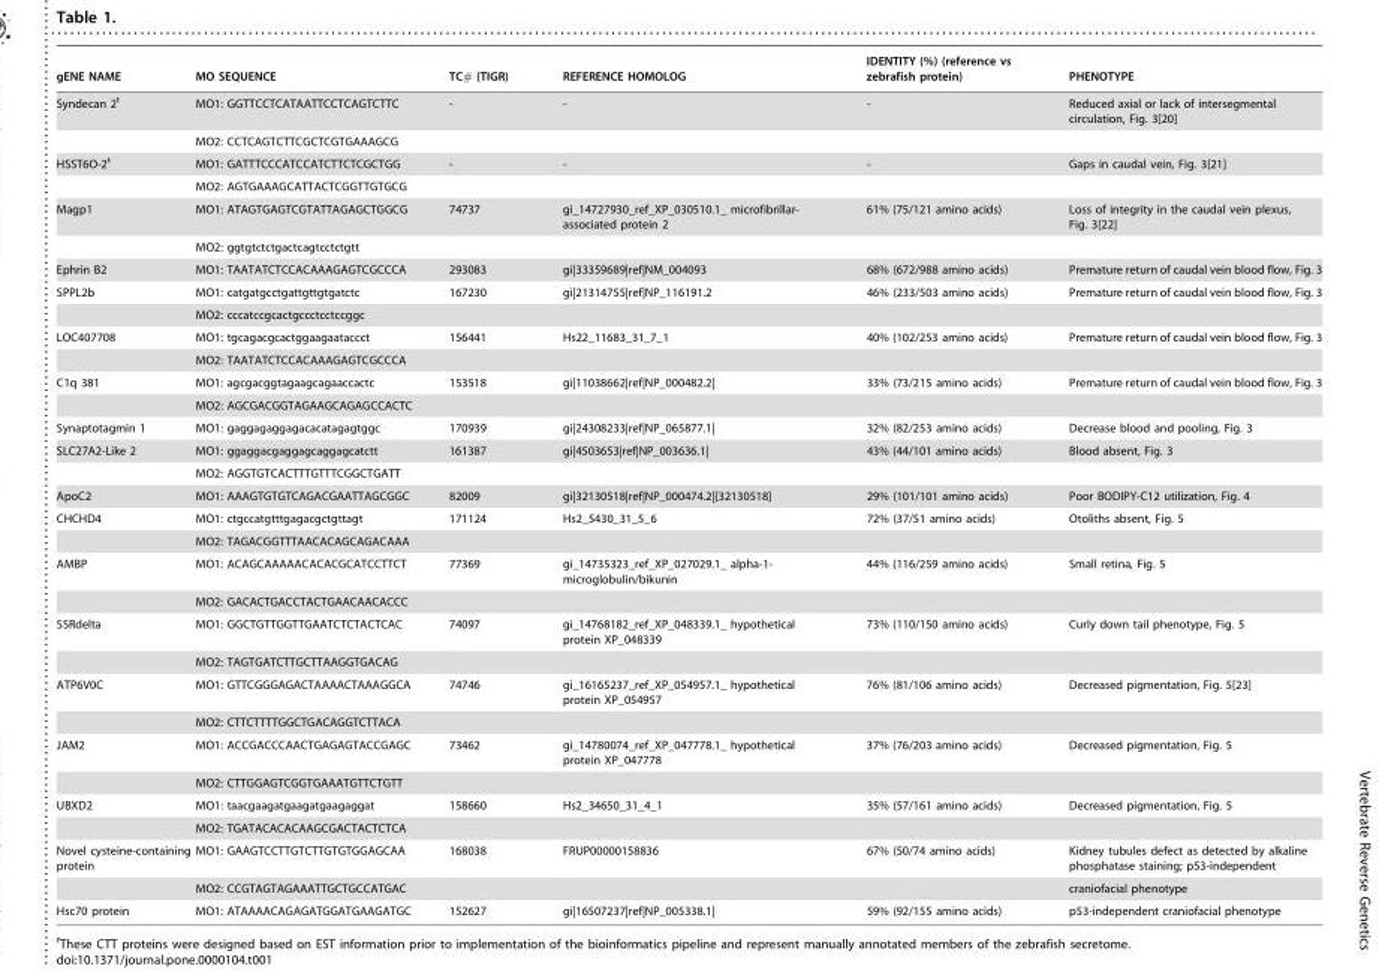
<table><thead><tr><td>gENE NAME</td><td>MO SEQUENCE</td><td>TC# (TIGR)</td><td>REFERENCE HOMOLOG</td><td>IDENTITY (%) (reference vs zebrafish protein)</td><td>PHENOTYPE</td></tr></thead><tbody><tr><td rowspan="2">Syndecan 2t¯</td><td>MO1: GGTTCCTCATAATTCCTCAGTCTTC</td><td>-</td><td>-</td><td>-</td><td>Reduced axial or lack of intersegmental circulation, Fig. 3[20]</td></tr><tr><td>MO2: CCTCAGTCTTCGCTCGTGAAAGCG</td><td></td><td></td><td></td><td></td></tr><tr><td rowspan="2">HSST6O-2t¯</td><td>MO1: GATTTCCCATCCATCTTCTCGCTGG</td><td>-</td><td>-</td><td>-</td><td>Gaps in caudal vein, Fig. 3[21]</td></tr><tr><td>MO2: AGTGAAAGCATTACTCGGTTGTGCG</td><td></td><td></td><td></td><td></td></tr><tr><td rowspan="2">Magp1</td><td>MO1: ATAGTGAGTCGTATTAGAGCTGGCG</td><td>74737</td><td>gi_14727930_ref_XP_030510.1_ microfibrillar- associated protein 2</td><td>61% (75/121 amino acids)</td><td>Loss of integrity in the caudal vein plexus, Fig. 3[22]</td></tr><tr><td>MO2: ggtgtctctgactcagtcctctgtt</td><td></td><td></td><td></td><td></td></tr><tr><td>Ephrin B2</td><td>MO1: TAATATCTCCACAAAGAGTCGCCCA</td><td>293083</td><td>gi|33359689|ref|NM_004093</td><td>68% (672/988 amino acids)</td><td>Premature return of caudal vein blood flow, Fig. 3</td></tr><tr><td rowspan="2">SPPL2b</td><td>MO1: catgatgcctgattgttgtgatctc</td><td>167230</td><td>gi|21314755|ref|NP_116191.2</td><td>46% (233/503 amino acids)</td><td>Premature return of caudal vein blood flow, Fig. 3</td></tr><tr><td>MO2: cccatccgcactgccctcctccggc</td><td></td><td></td><td></td><td></td></tr><tr><td rowspan="2">LOC407708</td><td>MO1: tgcagacgcactggaagaataccct</td><td>156441</td><td>Hs22_11683_31_7_1</td><td>40% (102/253 amino acids)</td><td>Premature return of caudal vein blood flow, Fig. 3</td></tr><tr><td>MO2: TAATATCTCCACAAAGAGTCGCCCA</td><td></td><td></td><td></td><td></td></tr><tr><td rowspan="2">C1q 381</td><td>MO1: agcgacggtagaagcagaaccactc</td><td>153518</td><td>gi|11038662|ref|NP_000482.2|</td><td>33% (73/215 amino acids)</td><td>Premature return of caudal vein blood flow, Fig. 3</td></tr><tr><td>MO2: AGCGACGGTAGAAGCAGAGCCACTC</td><td></td><td></td><td></td><td></td></tr><tr><td>Synaptotagmin 1</td><td>MO1: gaggagaggagacacatagagtggc</td><td>170939</td><td>gi|24308233|ref|NP_065877.1|</td><td>32% (82/253 amino acids)</td><td>Decrease blood and pooling, Fig. 3</td></tr><tr><td rowspan="2">SLC27A2-Like 2</td><td>MO1: ggaggacgaggagcaggagcatctt</td><td>161387</td><td>gi|4503653|ref|NP_003636.1|</td><td>43% (44/101 amino acids)</td><td>Blood absent, Fig. 3</td></tr><tr><td>MO2: AGGTGTCACTTTGTTTCGGCTGATT</td><td></td><td></td><td></td><td></td></tr><tr><td>ApoC2</td><td>MO1: AAAGTGTGTCAGACGAATTAGCGGC</td><td>82009</td><td>gi|32130518|ref|NP_000474.2|[32130518]</td><td>29% (101/101 amino acids)</td><td>Poor BODIPY-C12 utilization, Fig. 4</td></tr><tr><td rowspan="2">CHCHD4</td><td>MO1: ctgccatgtttgagacgctgttagt</td><td>171124</td><td>Hs2_5430_31_5_6</td><td>72% (37/51 amino acids)</td><td>Otoliths absent, Fig. 5</td></tr><tr><td>MO2: TAGACGGTTTAACACAGCAGACAAA</td><td></td><td></td><td></td><td></td></tr><tr><td rowspan="2">AMBP</td><td>MO1: ACAGCAAAAACACACGCATCCTTCT</td><td>77369</td><td>gi_14735323_ref_XP_027029.1_ alpha-1- microglobulin/bikunin</td><td>44% (116/259 amino acids)</td><td>Small retina, Fig. 5</td></tr><tr><td>MO2: GACACTGACCTACTGAACAACACCC</td><td></td><td></td><td></td><td></td></tr><tr><td rowspan="2">SSRdelta</td><td>MO1: GGCTGTTGGTTGAATCTCTACTCAC</td><td>74097</td><td>gi_14768182_ref_XP_048339.1_ hypothetical protein XP_048339</td><td>73% (110/150 amino acids)</td><td>Curly down tail phenotype, Fig. 5</td></tr><tr><td>MO2: TAGTGATCTTGCTTAAGGTGACAG</td><td></td><td></td><td></td><td></td></tr><tr><td rowspan="2">ATP6V0C</td><td>MO1: GTTCGGGAGACTAAAACTAAAGGCA</td><td>74746</td><td>gi_16165237_ref_XP_054957.1_ hypothetical protein XP_054957</td><td>76% (81/106 amino acids)</td><td>Decreased pigmentation, Fig. 5[23]</td></tr><tr><td>MO2: CTTCTTTTGGCTGACAGGTCTTACA</td><td></td><td></td><td></td><td></td></tr><tr><td rowspan="2">JAM2</td><td>MO1: ACCGACCCAACTGAGAGTACCGAGC</td><td>73462</td><td>gi_14780074_ref_XP_047778.1_ hypothetical protein XP_047778</td><td>37% (76/203 amino acids)</td><td>Decreased pigmentation, Fig. 5</td></tr><tr><td>MO2: CTTGGAGTCGGTGAAATGTTCTGTT</td><td></td><td></td><td></td><td></td></tr><tr><td rowspan="2">UBXD2</td><td>MO1: taacgaagatgaagatgaagaggat</td><td>158660</td><td>Hs2_34650_31_4_1</td><td>35% (57/161 amino acids)</td><td>Decreased pigmentation, Fig. 5</td></tr><tr><td>MO2: TGATACACACAAGCGACTACTCTCA</td><td></td><td></td><td></td><td></td></tr><tr><td rowspan="2">Novel cysteine-containing protein</td><td>MO1: GAAGTCCTTGTCTTGTGTGGAGCAA</td><td>168038</td><td>FRUP00000158836</td><td>67% (50/74 amino acids)</td><td>Kidney tubules defect as detected by alkaline phosphatase staining; p53-independent</td></tr><tr><td>MO2: CCGTAGTAGAAATTGCTGCCATGAC</td><td></td><td></td><td></td><td>craniofacial phenotype</td></tr><tr><td>Hsc70 protein</td><td>MO1: ATAAAACAGAGATGGATGAAGATGC</td><td>152627</td><td>gi|16507237|ref|NP_005338.1|</td><td>59% (92/155 amino acids)</td><td>p53-independent craniofacial phenotype</td></tr></tbody></table>